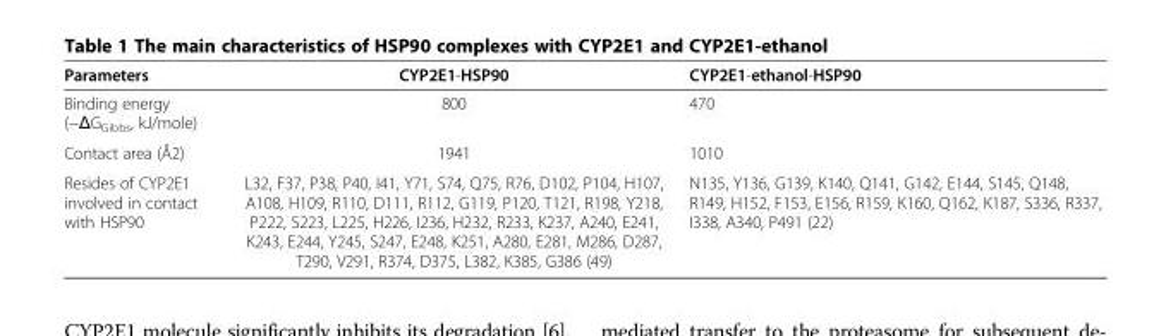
<table><thead><tr><td>Parameters</td><td>CYP2E1-HSP90</td><td>CYP2E1-ethanol-HSP90</td></tr></thead><tbody><tr><td>Binding energy (−ΔG<sub>Gibbs</sub>, kJ/mole)</td><td>800</td><td>470</td></tr><tr><td>Сontact area (Å2)</td><td>1941</td><td>1010</td></tr><tr><td>Resides of CYP2E1 involved in contact with HSP90</td><td>L32, F37, P38, P40, I41, Y71, S74, Q75, R76, D102, P104, H107, A108, H109, R110, D111, R112, G119, P120, T121, R198, Y218, P222, S223, L225, H226, I236, H232, R233, K237, A240, E241, K243, E244, Y245, S247, E248, K251, A280, E281, M286, D287, T290, V291, R374, D375, L382, K385, G386 (49)</td><td>N135, Y136, G139, K140, Q141, G142, E144, S145, Q148, R149, H152, F153, E156, R159, K160, Q162, K187, S336, R337, I338, A340, P491 (22)</td></tr></tbody></table>